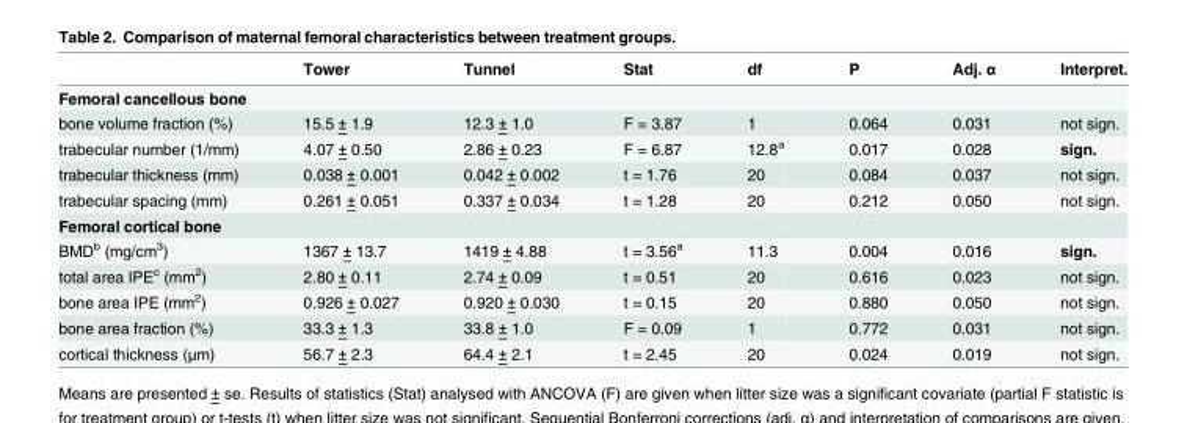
<table><thead><tr><td></td><td>Tower</td><td>Tunnel</td><td>Stat</td><td>df</td><td>P</td><td>Adj. α</td><td>Interpret.</td></tr></thead><tbody><tr><td colspan="8">Femoral cancellous bone</td></tr><tr><td>bone volume fraction (%)</td><td>15.5 ± 1.9</td><td>12.3 ± 1.0</td><td>F = 3.87</td><td>1</td><td>0.064</td><td>0.031</td><td>not sign.</td></tr><tr><td>trabecular number (1/mm)</td><td>4.07 ± 0.50</td><td>2.86 ± 0.23</td><td>F = 6.87</td><td>12.8<sup>a</sup></td><td>0.017</td><td>0.028</td><td>sign.</td></tr><tr><td>trabecular thickness (mm)</td><td>0.038 ± 0.001</td><td>0.042 ± 0.002</td><td>t = 1.76</td><td>20</td><td>0.084</td><td>0.037</td><td>not sign.</td></tr><tr><td>trabecular spacing (mm)</td><td>0.261 ± 0.051</td><td>0.337 ± 0.034</td><td>t = 1.28</td><td>20</td><td>0.212</td><td>0.050</td><td>not sign.</td></tr><tr><td colspan="8">Femoral cortical bone</td></tr><tr><td>BMD<sup>b</sup> (mg/cm<sup>3</sup>)</td><td>1367 ± 13.7</td><td>1419 ± 4.88</td><td>t = 3.56<sup>a</sup></td><td>11.3</td><td>0.004</td><td>0.016</td><td>sign.</td></tr><tr><td>total area IPE<sup>c</sup> (mm<sup>2</sup>)</td><td>2.80 ± 0.11</td><td>2.74 ± 0.09</td><td>t = 0.51</td><td>20</td><td>0.616</td><td>0.023</td><td>not sign.</td></tr><tr><td>bone area IPE (mm<sup>2</sup>)</td><td>0.926 ± 0.027</td><td>0.920 ± 0.030</td><td>t = 0.15</td><td>20</td><td>0.880</td><td>0.050</td><td>not sign.</td></tr><tr><td>bone area fraction (%)</td><td>33.3 ± 1.3</td><td>33.8 ± 1.0</td><td>F = 0.09</td><td>1</td><td>0.772</td><td>0.031</td><td>not sign.</td></tr><tr><td>cortical thickness (μm)</td><td>56.7 ± 2.3</td><td>64.4 ± 2.1</td><td>t = 2.45</td><td>20</td><td>0.024</td><td>0.019</td><td>not sign.</td></tr></tbody></table>